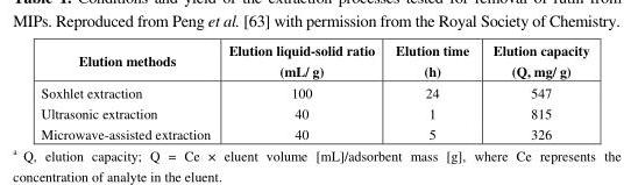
<table><thead><tr><td>Elution methods</td><td>Elution liquid-solid ratio (mL/ g)</td><td>Elution time (h)</td><td>Elution capacity (Q, mg/ g)</td></tr></thead><tbody><tr><td>Soxhlet extraction</td><td>100</td><td>24</td><td>547</td></tr><tr><td>Ultrasonic extraction</td><td>40</td><td>1</td><td>815</td></tr><tr><td>Microwave-assisted extraction</td><td>40</td><td>5</td><td>326</td></tr></tbody></table>